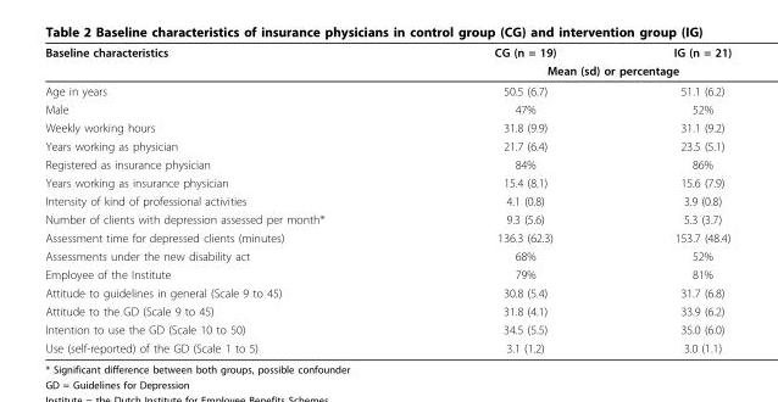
<table><thead><tr><td rowspan="2">Baseline characteristics</td><td>CG (n = 19)</td><td>IG (n = 21)</td></tr><tr><td colspan="2">Mean (sd) or percentage</td></tr></thead><tbody><tr><td>Age in years</td><td>50.5 (6.7)</td><td>51.1 (6.2)</td></tr><tr><td>Male</td><td>47%</td><td>52%</td></tr><tr><td>Weekly working hours</td><td>31.8 (9.9)</td><td>31.1 (9.2)</td></tr><tr><td>Years working as physician</td><td>21.7 (6.4)</td><td>23.5 (5.1)</td></tr><tr><td>Registered as insurance physician</td><td>84%</td><td>86%</td></tr><tr><td>Years working as insurance physician</td><td>15.4 (8.1)</td><td>15.6 (7.9)</td></tr><tr><td>Intensity of kind of professional activities</td><td>4.1 (0.8)</td><td>3.9 (0.8)</td></tr><tr><td>Number of clients with depression assessed per month*</td><td>9.3 (5.6)</td><td>5.3 (3.7)</td></tr><tr><td>Assessment time for depressed clients (minutes)</td><td>136.3 (62.3)</td><td>153.7 (48.4)</td></tr><tr><td>Assessments under the new disability act</td><td>68%</td><td>52%</td></tr><tr><td>Employee of the Institute</td><td>79%</td><td>81%</td></tr><tr><td>Attitude to guidelines in general (Scale 9 to 45)</td><td>30.8 (5.4)</td><td>31.7 (6.8)</td></tr><tr><td>Attitude to the GD (Scale 9 to 45)</td><td>31.8 (4.1)</td><td>33.9 (6.2)</td></tr><tr><td>Intention to use the GD (Scale 10 to 50)</td><td>34.5 (5.5)</td><td>35.0 (6.0)</td></tr><tr><td>Use (self-reported) of the GD (Scale 1 to 5)</td><td>3.1 (1.2)</td><td>3.0 (1.1)</td></tr></tbody></table>